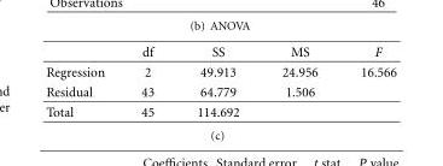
<table><thead><tr><td></td><td>df</td><td>SS</td><td>MS</td><td>F</td></tr></thead><tbody><tr><td>Regression</td><td>2</td><td>49.913</td><td>24.956</td><td>16.566</td></tr><tr><td>Residual</td><td>43</td><td>64.779</td><td>1.506</td><td></td></tr><tr><td>Total</td><td>45</td><td>114.692</td><td></td><td></td></tr></tbody></table>